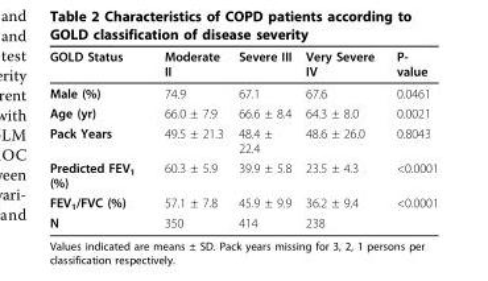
<table><thead><tr><td>GOLD Status</td><td>Moderate II</td><td>Severe III</td><td>Very Severe IV</td><td>P- value</td></tr></thead><tbody><tr><td>Male (%)</td><td>74.9</td><td>67.1</td><td>67.6</td><td>0.0461</td></tr><tr><td>Age (yr)</td><td>66.0 ± 7.9</td><td>66.6 ± 8.4</td><td>64.3 ± 8.0</td><td>0.0021</td></tr><tr><td>Pack Years</td><td>49.5 ± 21.3</td><td>48.4 ± 22.4</td><td>48.6 ± 26.0</td><td>0.8043</td></tr><tr><td>Predicted FEV<sub>1</sub> (%)</td><td>60.3 ± 5.9</td><td>39.9 ± 5.8</td><td>23.5 ± 4.3</td><td>&lt;0.0001</td></tr><tr><td>FEV<sub>1</sub>/FVC (%)</td><td>57.1 ± 7.8</td><td>45.9 ± 9.9</td><td>36.2 ± 9.4</td><td>&lt;0.0001</td></tr><tr><td>N</td><td>350</td><td>414</td><td>238</td><td></td></tr></tbody></table>